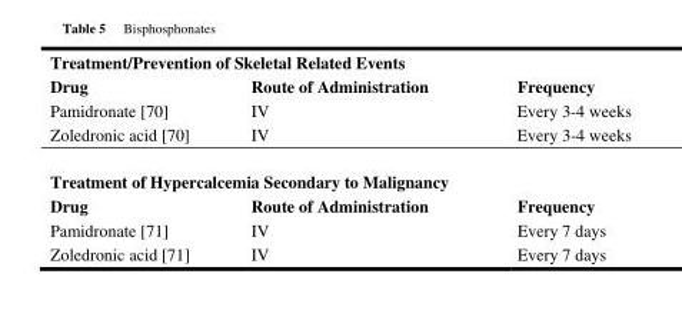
<table><thead><tr><td colspan="3">Treatment/Prevention of Skeletal Related Events</td></tr><tr><td>Drug</td><td>Route of Administration</td><td>Frequency</td></tr></thead><tbody><tr><td>Pamidronate [70]</td><td>IV</td><td>Every 3-4 weeks</td></tr><tr><td>Zoledronic acid [70]</td><td>IV</td><td>Every 3-4 weeks</td></tr><tr><td colspan="3">Treatment of Hypercalcemia Secondary to Malignancy</td></tr><tr><td>Drug</td><td>Route of Administration</td><td>Frequency</td></tr><tr><td>Pamidronate [71]</td><td>IV</td><td>Every 7 days</td></tr><tr><td>Zoledronic acid [71]</td><td>IV</td><td>Every 7 days</td></tr></tbody></table>